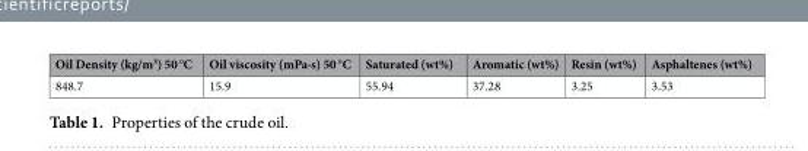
<table><thead><tr><td>Oil Density (kg/m<sup>3</sup>) 50 °C</td><td>Oil viscosity (mPa·s) 50 °C</td><td>Saturated (wt%)</td><td>Aromatic (wt%)</td><td>Resin (wt%)</td><td>Asphaltenes (wt%)</td></tr></thead><tbody><tr><td>848.7</td><td>15.9</td><td>55.94</td><td>37.28</td><td>3.25</td><td>3.53</td></tr></tbody></table>